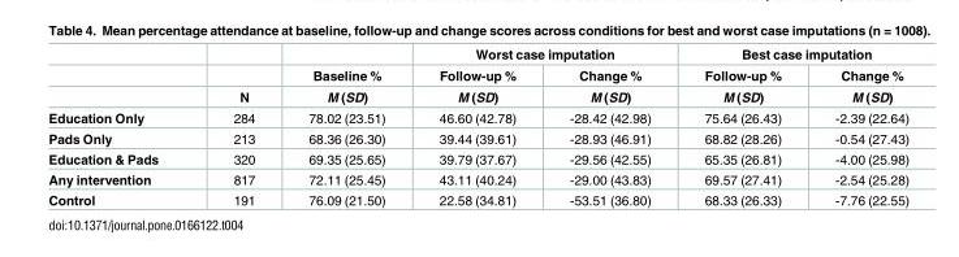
<table><thead><tr><td rowspan="3"></td><td rowspan="3">N</td><td rowspan="3">Baseline % M (SD)</td><td colspan="2">Worst case imputation</td><td colspan="2">Best case imputation</td></tr><tr><td rowspan="2">Follow-up % M (SD)</td><td rowspan="2">Change % M (SD)</td><td rowspan="2">Follow-up % M (SD)</td><td rowspan="2">Change % M (SD)</td></tr><tr></tr></thead><tbody><tr><td>Education Only</td><td>284</td><td>78.02 (23.51)</td><td>46.60 (42.78)</td><td>-28.42 (42.98)</td><td>75.64 (26.43)</td><td>-2.39 (22.64)</td></tr><tr><td>Pads Only</td><td>213</td><td>68.36 (26.30)</td><td>39.44 (39.61)</td><td>-28.93 (46.91)</td><td>68.82 (28.26)</td><td>-0.54 (27.43)</td></tr><tr><td>Education &amp; Pads</td><td>320</td><td>69.35 (25.65)</td><td>39.79 (37.67)</td><td>-29.56 (42.55)</td><td>65.35 (26.81)</td><td>-4.00 (25.98)</td></tr><tr><td>Any intervention</td><td>817</td><td>72.11 (25.45)</td><td>43.11 (40.24)</td><td>-29.00 (43.83)</td><td>69.57 (27.41)</td><td>-2.54 (25.28)</td></tr><tr><td>Control</td><td>191</td><td>76.09 (21.50)</td><td>22.58 (34.81)</td><td>-53.51 (36.80)</td><td>68.33 (26.33)</td><td>-7.76 (22.55)</td></tr></tbody></table>